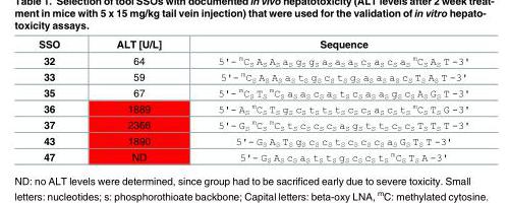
<table><thead><tr><td>SSO</td><td>ALT [U/L]</td><td>Sequence</td></tr></thead><tbody><tr><td>32</td><td>64</td><td>5&#x27;- <sup>m</sup>C<sub>S</sub> A<sub>S</sub> A<sub>S</sub> a<sub>S</sub> g<sub>S</sub> g<sub>S</sub> a<sub>S</sub> a<sub>S</sub> a<sub>S</sub> c<sub>S</sub> a<sub>S</sub> c<sub>S</sub> a<sub>S</sub> <sup>m</sup>C<sub>S</sub> A<sub>S</sub> T -3&#x27;</td></tr><tr><td>33</td><td>59</td><td>5&#x27;- <sup>m</sup>C<sub>S</sub> A<sub>S</sub> A<sub>S</sub> a<sub>S</sub> t<sub>S</sub> g<sub>S</sub> c<sub>S</sub> t<sub>S</sub> g<sub>S</sub> a<sub>S</sub> a<sub>S</sub> a<sub>S</sub> c<sub>S</sub> T<sub>S</sub> A<sub>S</sub> T -3&#x27;</td></tr><tr><td>35</td><td>67</td><td>5&#x27;- <sup>m</sup>C<sub>S</sub> T<sub>S</sub> <sup>m</sup>C<sub>S</sub> a<sub>S</sub> a<sub>S</sub> c<sub>S</sub> a<sub>S</sub> t<sub>S</sub> c<sub>S</sub> a<sub>S</sub> a<sub>S</sub> g<sub>S</sub> c<sub>S</sub> A<sub>S</sub> G<sub>S</sub> T -3&#x27;</td></tr><tr><td>36</td><td>1889</td><td>5&#x27;- A<sub>S</sub> <sup>m</sup>C<sub>S</sub> T<sub>S</sub> g<sub>S</sub> c<sub>S</sub> t<sub>S</sub> t<sub>S</sub> t<sub>S</sub> c<sub>S</sub> c<sub>S</sub> a<sub>S</sub> c<sub>S</sub> t<sub>S</sub> <sup>m</sup>C<sub>S</sub> T<sub>S</sub> G -3&#x27;</td></tr><tr><td>37</td><td>2368</td><td>5&#x27;- G<sub>S</sub> <sup>m</sup>C<sub>S</sub> <sup>m</sup>C<sub>S</sub> t<sub>S</sub> c<sub>S</sub> c<sub>S</sub> c<sub>S</sub> a<sub>S</sub> g<sub>S</sub> t<sub>S</sub> t<sub>S</sub> c<sub>S</sub> c<sub>S</sub> T<sub>S</sub> T<sub>S</sub> T -3&#x27;</td></tr><tr><td>43</td><td>1890</td><td>5&#x27;- G<sub>S</sub> A<sub>S</sub> T<sub>S</sub> g<sub>S</sub> c<sub>S</sub> c<sub>S</sub> t<sub>S</sub> c<sub>S</sub> c<sub>S</sub> c<sub>S</sub> a<sub>S</sub> G<sub>S</sub> T<sub>S</sub> T -3&#x27;</td></tr><tr><td>47</td><td>ND</td><td>5&#x27;- G<sub>S</sub> A<sub>S</sub> c<sub>S</sub> a<sub>S</sub> t<sub>S</sub> t<sub>S</sub> g<sub>S</sub> c<sub>S</sub> c<sub>S</sub> t<sub>S</sub> <sup>m</sup>C<sub>S</sub> T<sub>S</sub> A -3&#x27;</td></tr></tbody></table>